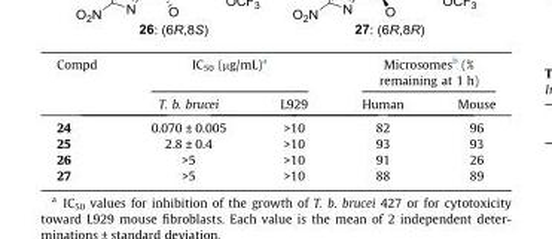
<table><thead><tr><td rowspan="2">Compd</td><td colspan="2">IC<sub>50</sub> (µg/mL)<sup>a</sup></td><td colspan="2">Microsomes<sup>b</sup> (% remaining at 1 h)</td></tr><tr><td>T. b. brucei</td><td>L929</td><td>Human</td><td>Mouse</td></tr></thead><tbody><tr><td>24</td><td>0.070 ± 0.005</td><td>&gt;10</td><td>82</td><td>96</td></tr><tr><td>25</td><td>2.8 ± 0.4</td><td>&gt;10</td><td>93</td><td>93</td></tr><tr><td>26</td><td>&gt;5</td><td>&gt;10</td><td>91</td><td>26</td></tr><tr><td>27</td><td>&gt;5</td><td>&gt;10</td><td>88</td><td>89</td></tr></tbody></table>